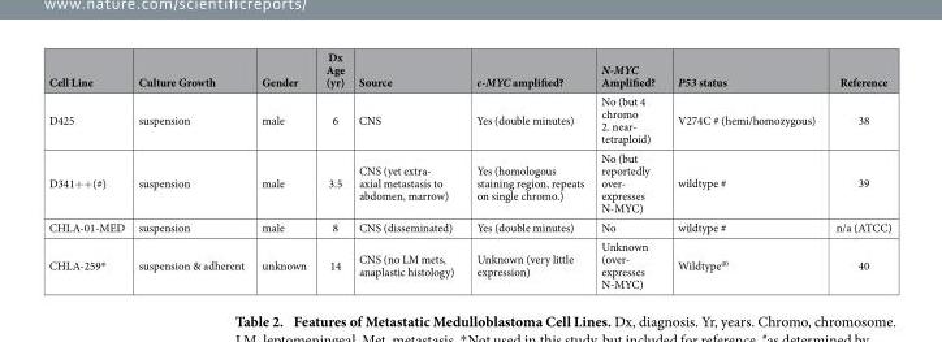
<table><thead><tr><td>Cell Line</td><td>Culture Growth</td><td>Gender</td><td>Dx Age (yr)</td><td>Source</td><td>c-MYC amplified?</td><td>N-MYC Amplified?</td><td>P53 status</td><td>Reference</td></tr></thead><tbody><tr><td>D425</td><td>suspension</td><td>male</td><td>6</td><td>CNS</td><td>Yes (double minutes)</td><td>No (but 4 chromo 2. near- tetraploid)</td><td>V274C # (hemi/homozygous)</td><td>38</td></tr><tr><td>D341+ + (#)</td><td>suspension</td><td>male</td><td>3.5</td><td>CNS (yet extra- axial metastasis to abdomen, marrow)</td><td>Yes (homologous staining region, repeats on single chromo.)</td><td>No (but reportedly over- expresses N-MYC)</td><td>wildtype #</td><td>39</td></tr><tr><td>CHLA-01-MED</td><td>suspension</td><td>male</td><td>8</td><td>CNS (disseminated)</td><td>Yes (double minutes)</td><td>No</td><td>wildtype #</td><td>n/a (ATCC)</td></tr><tr><td>CHLA-259*</td><td>suspension &amp; adherent</td><td>unknown</td><td>14</td><td>CNS (no LM mets, anaplastic histology)</td><td>Unknown (very little expression)</td><td>Unknown (over- expresses N-MYC)</td><td>Wildtype<sup>40</sup></td><td>40</td></tr></tbody></table>